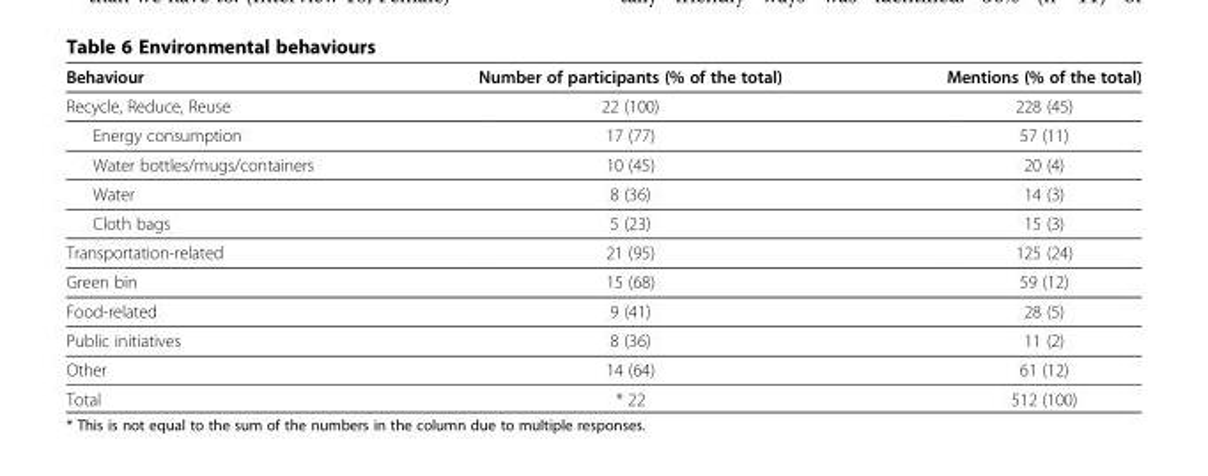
<table><thead><tr><td>Behaviour</td><td>Number of participants (% of the total)</td><td>Mentions (% of the total)</td></tr></thead><tbody><tr><td>Recycle, Reduce, Reuse</td><td>22 (100)</td><td>228 (45)</td></tr><tr><td>Energy consumption</td><td>17 (77)</td><td>57 (11)</td></tr><tr><td>Water bottles/mugs/containers</td><td>10 (45)</td><td>20 (4)</td></tr><tr><td>Water</td><td>8 (36)</td><td>14 (3)</td></tr><tr><td>Cloth bags</td><td>5 (23)</td><td>15 (3)</td></tr><tr><td>Transportation-related</td><td>21 (95)</td><td>125 (24)</td></tr><tr><td>Green bin</td><td>15 (68)</td><td>59 (12)</td></tr><tr><td>Food-related</td><td>9 (41)</td><td>28 (5)</td></tr><tr><td>Public initiatives</td><td>8 (36)</td><td>11 (2)</td></tr><tr><td>Other</td><td>14 (64)</td><td>61 (12)</td></tr><tr><td>Total</td><td>* 22</td><td>512 (100)</td></tr></tbody></table>